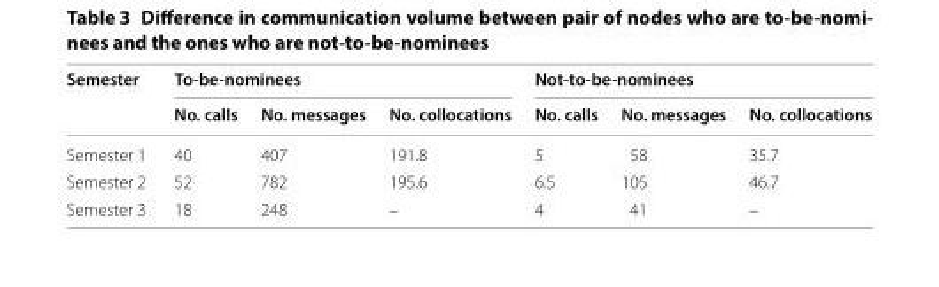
<table><thead><tr><td rowspan="2">Semester</td><td colspan="3">To-be-nominees</td><td colspan="3">Not-to-be-nominees</td></tr><tr><td>No. calls</td><td>No. messages</td><td>No. collocations</td><td>No. calls</td><td>No. messages</td><td>No. collocations</td></tr></thead><tbody><tr><td>Semester 1</td><td>40</td><td>407</td><td>191.8</td><td>5</td><td>58</td><td>35.7</td></tr><tr><td>Semester 2</td><td>52</td><td>782</td><td>195.6</td><td>6.5</td><td>105</td><td>46.7</td></tr><tr><td>Semester 3</td><td>18</td><td>248</td><td>–</td><td>4</td><td>41</td><td>–</td></tr></tbody></table>